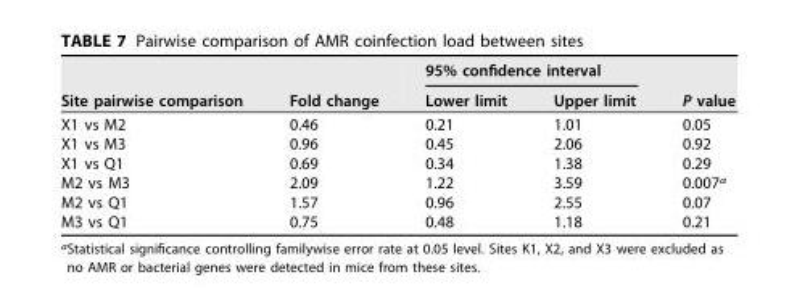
<table><thead><tr><td rowspan="2">Site pairwise comparison</td><td rowspan="2">Fold change</td><td colspan="2">95% confidence interval</td><td rowspan="2">P value</td></tr><tr><td>Lower limit</td><td>Upper limit</td></tr></thead><tbody><tr><td>X1 vs M2</td><td>0.46</td><td>0.21</td><td>1.01</td><td>0.05</td></tr><tr><td>X1 vs M3</td><td>0.96</td><td>0.45</td><td>2.06</td><td>0.92</td></tr><tr><td>X1 vs Q1</td><td>0.69</td><td>0.34</td><td>1.38</td><td>0.29</td></tr><tr><td>M2 vs M3</td><td>2.09</td><td>1.22</td><td>3.59</td><td>0.007<sup>a</sup></td></tr><tr><td>M2 vs Q1</td><td>1.57</td><td>0.96</td><td>2.55</td><td>0.07</td></tr><tr><td>M3 vs Q1</td><td>0.75</td><td>0.48</td><td>1.18</td><td>0.21</td></tr></tbody></table>